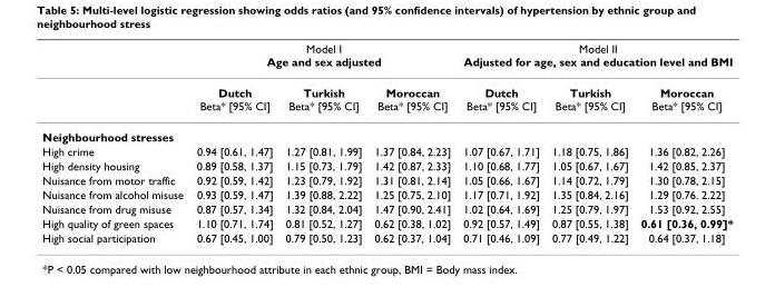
<table><thead><tr><td rowspan="2"></td><td colspan="3">Model I Age and sex adjusted</td><td colspan="3">Model II Adjusted for age, sex and education level and BMI</td></tr><tr><td>Dutch Beta* [95% CI]</td><td>Turkish Beta* [95% CI]</td><td>Moroccan Beta* [95% CI]</td><td>Dutch Beta* [95% CI]</td><td>Turkish Beta* [95% CI]</td><td>Moroccan Beta* [95% CI]</td></tr></thead><tbody><tr><td colspan="7">Neighbourhood stresses</td></tr><tr><td>High crime</td><td>0.94 [0.61, 1.47]</td><td>1.27 [0.81, 1.99]</td><td>1.37 [0.84, 2.23]</td><td>1.07 [0.67, 1.71]</td><td>1.18 [0.75, 1.86]</td><td>1.36 [0.82, 2.26]</td></tr><tr><td>High density housing</td><td>0.89 [0.58, 1.37]</td><td>1.15 [0.73, 1.79]</td><td>1.42 [0.87, 2.33]</td><td>1.10 [0.68, 1.77]</td><td>1.05 [0.67, 1.67]</td><td>1.42 [0.85, 2.37]</td></tr><tr><td>Nuisance from motor traffic</td><td>0.92 [0.59, 1.42]</td><td>1.23 [0.79, 1.92]</td><td>1.31 [0.81, 2.14]</td><td>1.05 [0.66, 1.67]</td><td>1.14 [0.72, 1.79]</td><td>1.30 [0.78, 2.15]</td></tr><tr><td>Nuisance from alcohol misuse</td><td>0.93 [0.59, 1.47]</td><td>1.39 [0.88, 2.22]</td><td>1.25 [0.75, 2.10]</td><td>1.17 [0.71, 1.92]</td><td>1.35 [0.84, 2.16]</td><td>1.29 [0.76. 2.22]</td></tr><tr><td>Nuisance from drug misuse</td><td>0.87 [0.57, 1.34]</td><td>1.32 [0.84, 2.04]</td><td>1.47 [0.90, 2.41]</td><td>1.02 [0.64, 1.69]</td><td>1.25 [0.79, 1.97]</td><td>1.53 [0.92, 2.55]</td></tr><tr><td>High quality of green spaces</td><td>1.10 [0.71, 1.74]</td><td>0.81 [0.52, 1.27]</td><td>0.62 [0.38, 1.02]</td><td>0.92 [0.57, 1.49]</td><td>0.87 [0.55, 1.38]</td><td>0.61 [0.36, 0.99]*</td></tr><tr><td>High social participation</td><td>0.67 [0.45, 1.00]</td><td>0.79 [0.50, 1.23]</td><td>0.62 [0.37, 1.04]</td><td>0.71 [0.46, 1.09]</td><td>0.77 [0.49, 1.22]</td><td>0.64 [0.37, 1.18]</td></tr></tbody></table>